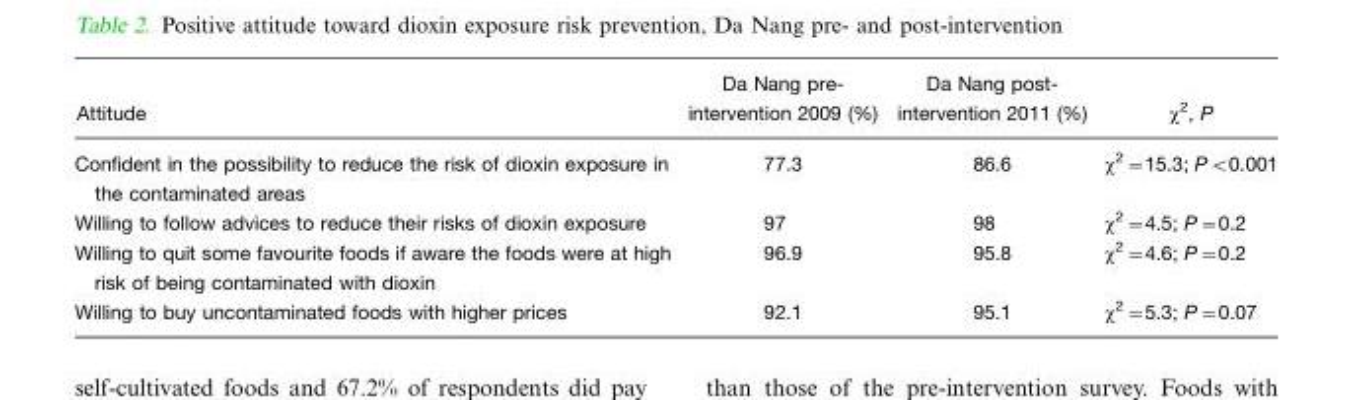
<table><thead><tr><td>Attitude</td><td>Da Nang pre- intervention 2009 (%)</td><td>Da Nang post- intervention 2011 (%)</td><td>χ<sup>2</sup>, P</td></tr></thead><tbody><tr><td>Confident in the possibility to reduce the risk of dioxin exposure in the contaminated areas</td><td>77.3</td><td>86.6</td><td>χ<sup>2</sup>=15.3; P&lt;0.001</td></tr><tr><td>Willing to follow advices to reduce their risks of dioxin exposure</td><td>97</td><td>98</td><td>χ<sup>2</sup>=4.5; P=0.2</td></tr><tr><td>Willing to quit some favourite foods if aware the foods were at high risk of being contaminated with dioxin</td><td>96.9</td><td>95.8</td><td>χ<sup>2</sup>=4.6; P=0.2</td></tr><tr><td>Willing to buy uncontaminated foods with higher prices</td><td>92.1</td><td>95.1</td><td>χ<sup>2</sup>=5.3; P=0.07</td></tr></tbody></table>